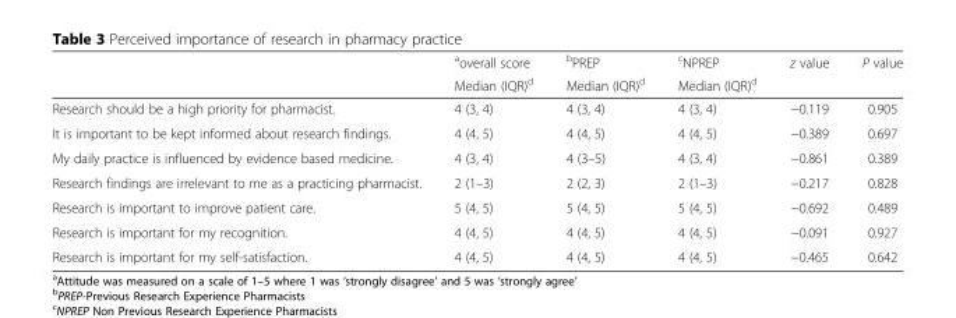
<table><thead><tr><td rowspan="2"></td><td rowspan="2"><sup>a</sup>overall score Median (IQR)<sup>d</sup></td><td rowspan="2"><sup>b</sup>PREP Median (IQR)<sup>d</sup></td><td rowspan="2"><sup>c</sup>NPREP Median (IQR)<sup>d</sup></td><td rowspan="2">z value</td><td rowspan="2">P value</td></tr><tr></tr></thead><tbody><tr><td>Research should be a high priority for pharmacist.</td><td>4 (3, 4)</td><td>4 (3, 4)</td><td>4 (3, 4)</td><td>−0.119</td><td>0.905</td></tr><tr><td>It is important to be kept informed about research findings.</td><td>4 (4, 5)</td><td>4 (4, 5)</td><td>4 (4, 5)</td><td>−0.389</td><td>0.697</td></tr><tr><td>My daily practice is influenced by evidence based medicine.</td><td>4 (3, 4)</td><td>4 (3–5)</td><td>4 (3, 4)</td><td>−0.861</td><td>0.389</td></tr><tr><td>Research findings are irrelevant to me as a practicing pharmacist.</td><td>2 (1–3)</td><td>2 (2, 3)</td><td>2 (1–3)</td><td>−0.217</td><td>0.828</td></tr><tr><td>Research is important to improve patient care.</td><td>5 (4, 5)</td><td>5 (4, 5)</td><td>5 (4, 5)</td><td>−0.692</td><td>0.489</td></tr><tr><td>Research is important for my recognition.</td><td>4 (4, 5)</td><td>4 (4, 5)</td><td>4 (4, 5)</td><td>−0.091</td><td>0.927</td></tr><tr><td>Research is important for my self-satisfaction.</td><td>4 (4, 5)</td><td>4 (4, 5)</td><td>4 (4, 5)</td><td>−0.465</td><td>0.642</td></tr></tbody></table>